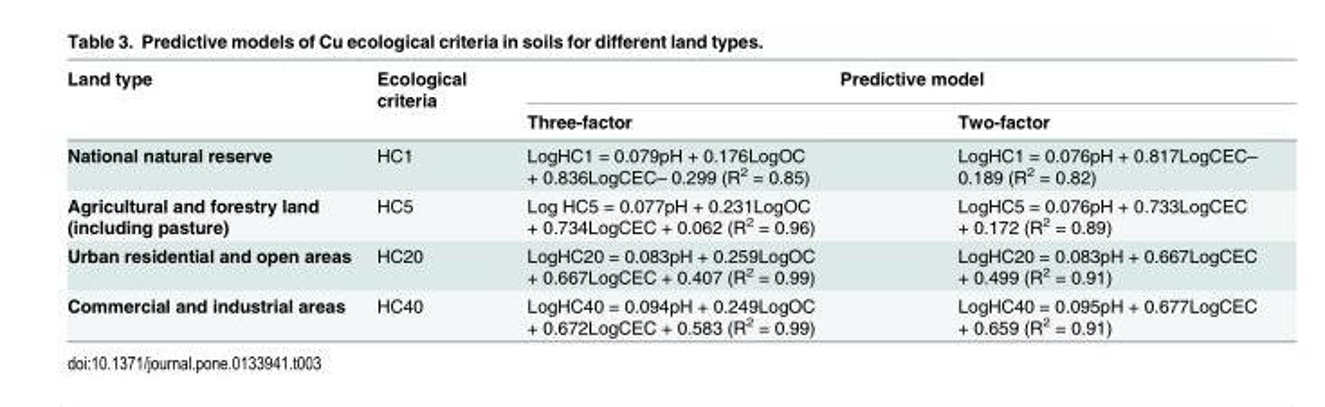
<table><thead><tr><td rowspan="2">Land type</td><td rowspan="2">Ecological criteria</td><td colspan="2">Predictive model</td></tr><tr><td>Three-factor</td><td>Two-factor</td></tr></thead><tbody><tr><td>National natural reserve</td><td>HC1</td><td>LogHC1 = 0.079pH + 0.176LogOC + 0.836LogCEC– 0.299 (R<sup>2</sup> = 0.85)</td><td>LogHC1 = 0.076pH + 0.817LogCEC– 0.189 (R<sup>2</sup> = 0.82)</td></tr><tr><td>Agricultural and forestry land (including pasture)</td><td>HC5</td><td>Log HC5 = 0.077pH + 0.231LogOC + 0.734LogCEC + 0.062 (R<sup>2</sup> = 0.96)</td><td>LogHC5 = 0.076pH + 0.733LogCEC + 0.172 (R<sup>2</sup> = 0.89)</td></tr><tr><td>Urban residential and open areas</td><td>HC20</td><td>LogHC20 = 0.083pH + 0.259LogOC + 0.667LogCEC + 0.407 (R<sup>2</sup> = 0.99)</td><td>LogHC20 = 0.083pH + 0.667LogCEC + 0.499 (R<sup>2</sup> = 0.91)</td></tr><tr><td>Commercial and industrial areas</td><td>HC40</td><td>LogHC40 = 0.094pH + 0.249LogOC + 0.672LogCEC + 0.583 (R<sup>2</sup> = 0.99)</td><td>LogHC40 = 0.095pH + 0.677LogCEC + 0.659 (R<sup>2</sup> = 0.91)</td></tr></tbody></table>